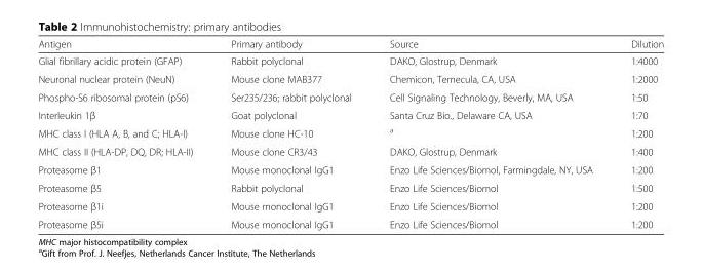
<table><thead><tr><td>Antigen</td><td>Primary antibody</td><td>Source</td><td>Dilution</td></tr></thead><tbody><tr><td>Glial fibrillary acidic protein (GFAP)</td><td>Rabbit polyclonal</td><td>DAKO, Glostrup, Denmark</td><td>1:4000</td></tr><tr><td>Neuronal nuclear protein (NeuN)</td><td>Mouse clone MAB377</td><td>Chemicon, Temecula, CA, USA</td><td>1:2000</td></tr><tr><td>Phospho-S6 ribosomal protein (pS6)</td><td>Ser235/236; rabbit polyclonal</td><td>Cell Signaling Technology, Beverly, MA, USA</td><td>1:50</td></tr><tr><td>Interleukin 1β</td><td>Goat polyclonal</td><td>Santa Cruz Bio., Delaware CA, USA</td><td>1:70</td></tr><tr><td>MHC class I (HLA A, B, and C; HLA-I)</td><td>Mouse clone HC-10</td><td><sup>a</sup></td><td>1:200</td></tr><tr><td>MHC class II (HLA-DP, DQ, DR; HLA-II)</td><td>Mouse clone CR3/43</td><td>DAKO, Glostrup, Denmark</td><td>1:400</td></tr><tr><td>Proteasome β1</td><td>Mouse monoclonal IgG1</td><td>Enzo Life Sciences/Biomol, Farmingdale, NY, USA</td><td>1:200</td></tr><tr><td>Proteasome β5</td><td>Rabbit polyclonal</td><td>Enzo Life Sciences/Biomol</td><td>1:500</td></tr><tr><td>Proteasome β1i</td><td>Mouse monoclonal IgG1</td><td>Enzo Life Sciences/Biomol</td><td>1:200</td></tr><tr><td>Proteasome β5i</td><td>Mouse monoclonal IgG1</td><td>Enzo Life Sciences/Biomol</td><td>1:200</td></tr></tbody></table>